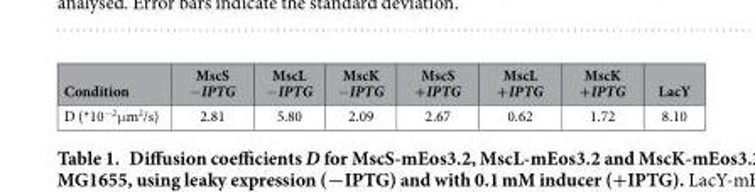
<table><thead><tr><td>Condition</td><td>MscS −IPTG</td><td>MscL −IPTG</td><td>MscK −IPTG</td><td>MscS +IPTG</td><td>MscL +IPTG</td><td>MscK +IPTG</td><td>LacY</td></tr></thead><tbody><tr><td>D (*10<sup>−2</sup> μ m<sup>2</sup>/s)</td><td>2.81</td><td>5.80</td><td>2.09</td><td>2.67</td><td>0.62</td><td>1.72</td><td>8.10</td></tr></tbody></table>